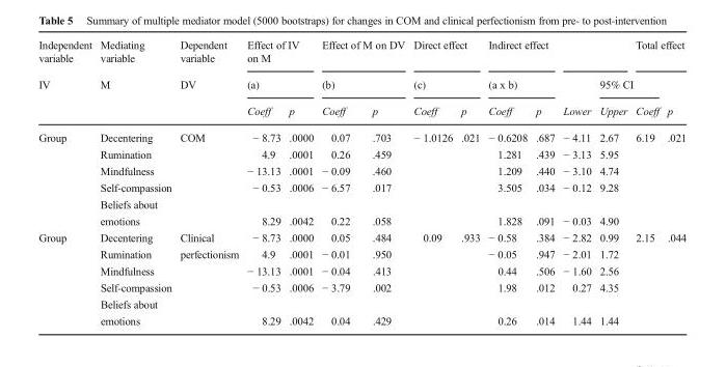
<table><thead><tr><td rowspan="3">Independent variable IV</td><td rowspan="3">Mediating variable M</td><td rowspan="3">Dependent variable DV</td><td rowspan="2" colspan="2">Effect of IV on M (a)</td><td rowspan="2" colspan="2">Effect of M on DV (b)</td><td rowspan="2" colspan="2">Direct effect (c)</td><td rowspan="2" colspan="2">Indirect effect (a x b)</td><td rowspan="3">Lower</td><td></td><td colspan="2">Total effect</td></tr><tr><td colspan="2">95% CI</td><td rowspan="2">p</td></tr><tr><td>Coeff</td><td>p</td><td>Coeff</td><td>p</td><td>Coeff</td><td>p</td><td>Coeff</td><td>p</td><td>Upper</td><td>Coeff</td></tr></thead><tbody><tr><td rowspan="6">Group</td><td>Decentering</td><td>COM</td><td>− 8.73</td><td>.0000</td><td>0.07</td><td>.703</td><td>− 1.0126</td><td>.021</td><td>− 0.6208</td><td>.687</td><td>− 4.11</td><td>2.67</td><td>6.19</td><td>.021</td></tr><tr><td>Rumination</td><td></td><td>4.9</td><td>.0001</td><td>0.26</td><td>.459</td><td></td><td></td><td>1.281</td><td>.439</td><td>− 3.13</td><td>5.95</td><td></td><td></td></tr><tr><td>Mindfulness</td><td></td><td>− 13.13</td><td>.0001</td><td>− 0.09</td><td>.460</td><td></td><td></td><td>1.209</td><td>.440</td><td>− 3.10</td><td>4.74</td><td></td><td></td></tr><tr><td>Self-compassion</td><td></td><td>− 0.53</td><td>.0006</td><td>− 6.57</td><td>.017</td><td></td><td></td><td>3.505</td><td>.034</td><td>− 0.12</td><td>9.28</td><td></td><td></td></tr><tr><td>Beliefs about</td><td></td><td></td><td></td><td></td><td></td><td></td><td></td><td></td><td></td><td></td><td></td><td></td><td></td></tr><tr><td>emotions</td><td></td><td>8.29</td><td>.0042</td><td>0.22</td><td>.058</td><td></td><td></td><td>1.828</td><td>.091</td><td>− 0.03</td><td>4.90</td><td></td><td></td></tr><tr><td rowspan="6">Group</td><td>Decentering</td><td>Clinical</td><td>− 8.73</td><td>.0000</td><td>0.05</td><td>.484</td><td>0.09</td><td>.933</td><td>− 0.58</td><td>.384</td><td>− 2.82</td><td>0.99</td><td>2.15</td><td>.044</td></tr><tr><td>Rumination</td><td>perfectionism</td><td>4.9</td><td>.0001</td><td>− 0.01</td><td>.950</td><td></td><td></td><td>− 0.05</td><td>.947</td><td>− 2.01</td><td>1.72</td><td></td><td></td></tr><tr><td>Mindfulness</td><td></td><td>− 13.13</td><td>.0001</td><td>− 0.04</td><td>.413</td><td></td><td></td><td>0.44</td><td>.506</td><td>− 1.60</td><td>2.56</td><td></td><td></td></tr><tr><td>Self-compassion</td><td></td><td>− 0.53</td><td>.0006</td><td>− 3.79</td><td>.002</td><td></td><td></td><td>1.98</td><td>.012</td><td>0.27</td><td>4.35</td><td></td><td></td></tr><tr><td>Beliefs about</td><td></td><td></td><td></td><td></td><td></td><td></td><td></td><td></td><td></td><td></td><td></td><td></td><td></td></tr><tr><td>emotions</td><td></td><td>8.29</td><td>.0042</td><td>0.04</td><td>.429</td><td></td><td></td><td>0.26</td><td>.014</td><td>1.44</td><td>1.44</td><td></td><td></td></tr></tbody></table>